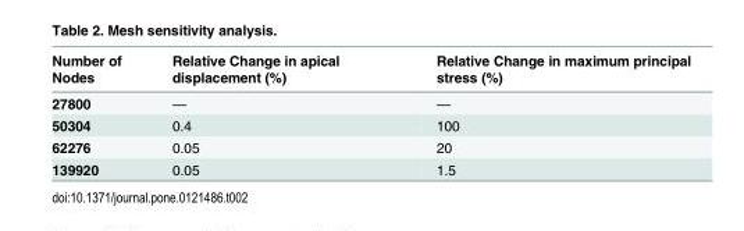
<table><thead><tr><td>Number of Nodes</td><td>Relative Change in apical displacement (%)</td><td>Relative Change in maximum principal stress (%)</td></tr></thead><tbody><tr><td>27800</td><td>—</td><td>—</td></tr><tr><td>50304</td><td>0.4</td><td>100</td></tr><tr><td>62276</td><td>0.05</td><td>20</td></tr><tr><td>139920</td><td>0.05</td><td>1.5</td></tr></tbody></table>